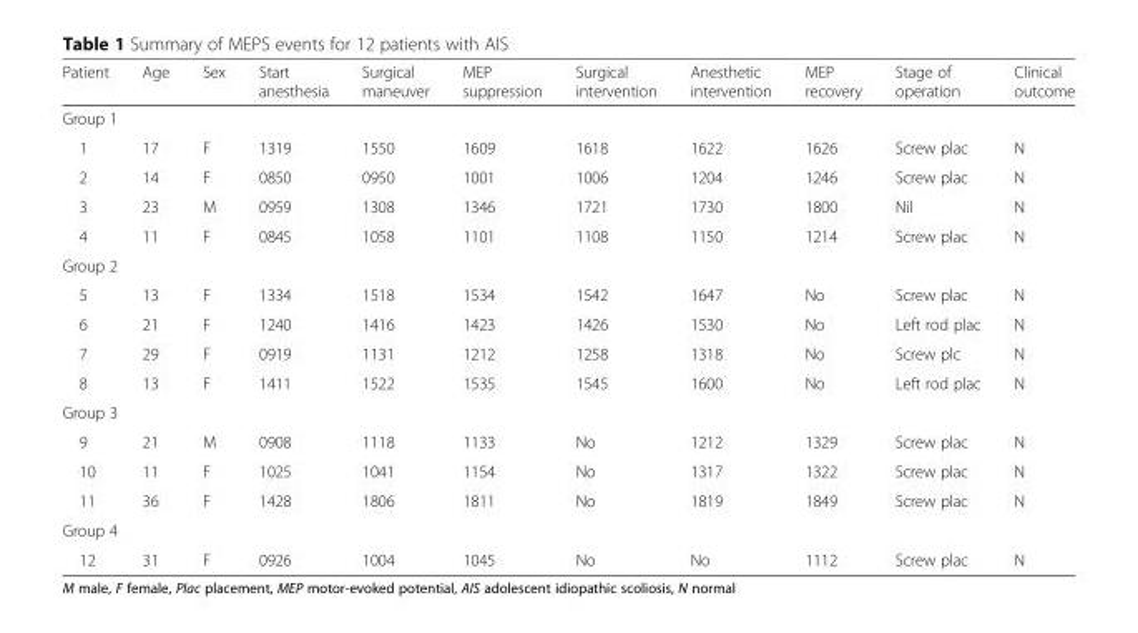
<table><thead><tr><td>Patient</td><td>Age</td><td>Sex</td><td>Start anesthesia</td><td>Surgical maneuver</td><td>MEP suppression</td><td>Surgical intervention</td><td>Anesthetic intervention</td><td>MEP recovery</td><td>Stage of operation</td><td>Clinical outcome</td></tr></thead><tbody><tr><td colspan="11">Group 1</td></tr><tr><td>1</td><td>17</td><td>F</td><td>1319</td><td>1550</td><td>1609</td><td>1618</td><td>1622</td><td>1626</td><td>Screw plac</td><td>N</td></tr><tr><td>2</td><td>14</td><td>F</td><td>0850</td><td>0950</td><td>1001</td><td>1006</td><td>1204</td><td>1246</td><td>Screw plac</td><td>N</td></tr><tr><td>3</td><td>23</td><td>M</td><td>0959</td><td>1308</td><td>1346</td><td>1721</td><td>1730</td><td>1800</td><td>Nil</td><td>N</td></tr><tr><td>4</td><td>11</td><td>F</td><td>0845</td><td>1058</td><td>1101</td><td>1108</td><td>1150</td><td>1214</td><td>Screw plac</td><td>N</td></tr><tr><td colspan="11">Group 2</td></tr><tr><td>5</td><td>13</td><td>F</td><td>1334</td><td>1518</td><td>1534</td><td>1542</td><td>1647</td><td>No</td><td>Screw plac</td><td>N</td></tr><tr><td>6</td><td>21</td><td>F</td><td>1240</td><td>1416</td><td>1423</td><td>1426</td><td>1530</td><td>No</td><td>Left rod plac</td><td>N</td></tr><tr><td>7</td><td>29</td><td>F</td><td>0919</td><td>1131</td><td>1212</td><td>1258</td><td>1318</td><td>No</td><td>Screw plc</td><td>N</td></tr><tr><td>8</td><td>13</td><td>F</td><td>1411</td><td>1522</td><td>1535</td><td>1545</td><td>1600</td><td>No</td><td>Left rod plac</td><td>N</td></tr><tr><td colspan="11">Group 3</td></tr><tr><td>9</td><td>21</td><td>M</td><td>0908</td><td>1118</td><td>1133</td><td>No</td><td>1212</td><td>1329</td><td>Screw plac</td><td>N</td></tr><tr><td>10</td><td>11</td><td>F</td><td>1025</td><td>1041</td><td>1154</td><td>No</td><td>1317</td><td>1322</td><td>Screw plac</td><td>N</td></tr><tr><td>11</td><td>36</td><td>F</td><td>1428</td><td>1806</td><td>1811</td><td>No</td><td>1819</td><td>1849</td><td>Screw plac</td><td>N</td></tr><tr><td colspan="11">Group 4</td></tr><tr><td>12</td><td>31</td><td>F</td><td>0926</td><td>1004</td><td>1045</td><td>No</td><td>No</td><td>1112</td><td>Screw plac</td><td>N</td></tr></tbody></table>